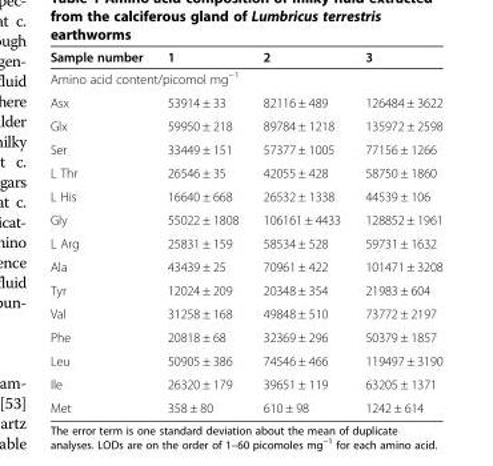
<table><thead><tr><td>Sample number</td><td>1</td><td>2</td><td>3</td></tr></thead><tbody><tr><td colspan="4">Amino acid content/picomol mg<sup>−1</sup></td></tr><tr><td>Asx</td><td>53914 ± 33</td><td>82116 ± 489</td><td>126484 ± 3622</td></tr><tr><td>Glx</td><td>59950 ± 218</td><td>89784 ± 1218</td><td>135972 ± 2598</td></tr><tr><td>Ser</td><td>33449 ± 151</td><td>57377 ± 1005</td><td>77156 ± 1266</td></tr><tr><td>L Thr</td><td>26546 ± 35</td><td>42055 ± 428</td><td>58750 ± 1860</td></tr><tr><td>L His</td><td>16640 ± 668</td><td>26532 ± 1338</td><td>44539 ± 106</td></tr><tr><td>Gly</td><td>55022 ± 1808</td><td>106161 ± 4433</td><td>128852 ± 1961</td></tr><tr><td>L Arg</td><td>25831 ± 159</td><td>58534 ± 528</td><td>59731 ± 1632</td></tr><tr><td>Ala</td><td>43439 ± 25</td><td>70961 ± 422</td><td>101471 ± 3208</td></tr><tr><td>Tyr</td><td>12024 ± 209</td><td>20348 ± 354</td><td>21983 ± 604</td></tr><tr><td>Val</td><td>31258 ± 168</td><td>49848 ± 510</td><td>73772 ± 2197</td></tr><tr><td>Phe</td><td>20818 ± 68</td><td>32369 ± 296</td><td>50379 ± 1857</td></tr><tr><td>Leu</td><td>50905 ± 386</td><td>74546 ± 466</td><td>119497 ± 3190</td></tr><tr><td>Ile</td><td>26320 ± 179</td><td>39651 ± 119</td><td>63205 ± 1371</td></tr><tr><td>Met</td><td>358 ± 80</td><td>610 ± 98</td><td>1242 ± 614</td></tr></tbody></table>